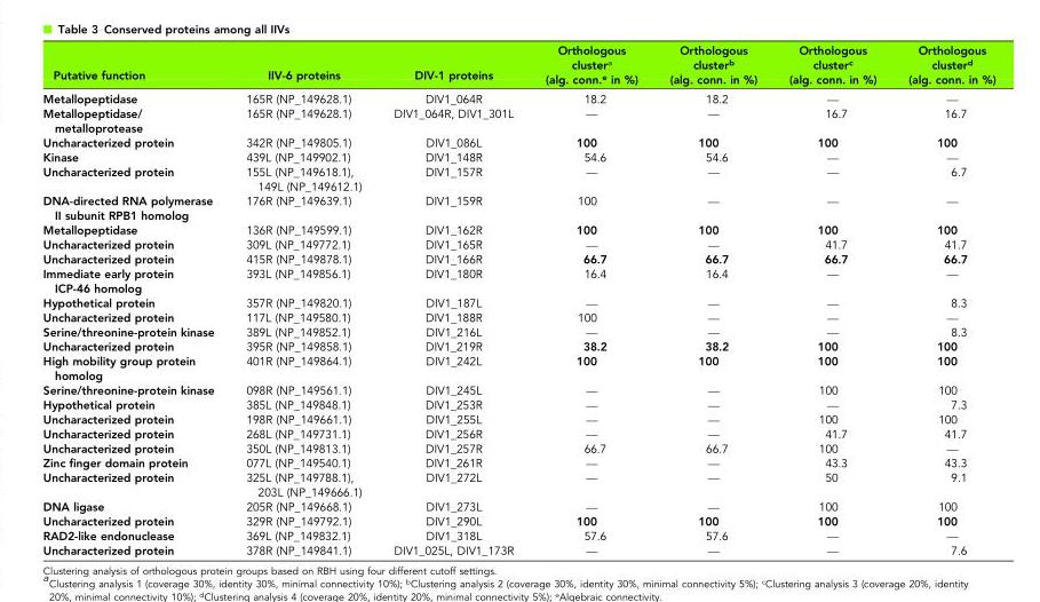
<table><thead><tr><td>Putative function</td><td>IIV-6 proteins</td><td>DIV-1 proteins</td><td>Orthologous cluster<sup>a</sup> (alg. conn.<sup>e</sup> in %)</td><td>Orthologous cluster<sup>b</sup> (alg. conn. in %)</td><td>Orthologous cluster<sup>c</sup> (alg. conn. in %)</td><td>Orthologous cluster<sup>d</sup> (alg. conn. in %)</td></tr></thead><tbody><tr><td>Metallopeptidase</td><td>165R (NP_149628.1)</td><td>DIV1_064R</td><td>18.2</td><td>18.2</td><td>—</td><td>—</td></tr><tr><td>Metallopeptidase/ metalloprotease</td><td>165R (NP_149628.1)</td><td>DIV1_064R, DIV1_301L</td><td>—</td><td>—</td><td>16.7</td><td>16.7</td></tr><tr><td>Uncharacterized protein</td><td>342R (NP_149805.1)</td><td>DIV1_086L</td><td>100</td><td>100</td><td>100</td><td>100</td></tr><tr><td>Kinase</td><td>439L (NP_149902.1)</td><td>DIV1_148R</td><td>54.6</td><td>54.6</td><td>—</td><td>—</td></tr><tr><td>Uncharacterized protein</td><td>155L (NP_149618.1), 149L (NP_149612.1)</td><td>DIV1_157R</td><td>—</td><td>—</td><td>—</td><td>6.7</td></tr><tr><td>DNA-directed RNA polymerase II subunit RPB1 homolog</td><td>176R (NP_149639.1)</td><td>DIV1_159R</td><td>100</td><td>—</td><td>—</td><td>—</td></tr><tr><td>Metallopeptidase</td><td>136R (NP_149599.1)</td><td>DIV1_162R</td><td>100</td><td>100</td><td>100</td><td>100</td></tr><tr><td>Uncharacterized protein</td><td>309L (NP_149772.1)</td><td>DIV1_165R</td><td>—</td><td>—</td><td>41.7</td><td>41.7</td></tr><tr><td>Uncharacterized protein</td><td>415R (NP_149878.1)</td><td>DIV1_166R</td><td>66.7</td><td>66.7</td><td>66.7</td><td>66.7</td></tr><tr><td>Immediate early protein ICP-46 homolog</td><td>393L (NP_149856.1)</td><td>DIV1_180R</td><td>16.4</td><td>16.4</td><td>—</td><td>—</td></tr><tr><td>Hypothetical protein</td><td>357R (NP_149820.1)</td><td>DIV1_187L</td><td>—</td><td>—</td><td>—</td><td>8.3</td></tr><tr><td>Uncharacterized protein</td><td>117L (NP_149580.1)</td><td>DIV1_188R</td><td>100</td><td>—</td><td>—</td><td>—</td></tr><tr><td>Serine/threonine-protein kinase</td><td>389L (NP_149852.1)</td><td>DIV1_216L</td><td>—</td><td>—</td><td>—</td><td>8.3</td></tr><tr><td>Uncharacterized protein</td><td>395R (NP_149858.1)</td><td>DIV1_219R</td><td>38.2</td><td>38.2</td><td>100</td><td>100</td></tr><tr><td>High mobility group protein homolog</td><td>401R (NP_149864.1)</td><td>DIV1_242L</td><td>100</td><td>100</td><td>100</td><td>100</td></tr><tr><td>Serine/threonine-protein kinase</td><td>098R (NP_149561.1)</td><td>DIV1_245L</td><td>—</td><td>—</td><td>100</td><td>100</td></tr><tr><td>Hypothetical protein</td><td>385L (NP_149848.1)</td><td>DIV1_253R</td><td>—</td><td>—</td><td>—</td><td>7.3</td></tr><tr><td>Uncharacterized protein</td><td>198R (NP_149661.1)</td><td>DIV1_255L</td><td>—</td><td>—</td><td>100</td><td>100</td></tr><tr><td>Uncharacterized protein</td><td>268L (NP_149731.1)</td><td>DIV1_256R</td><td>—</td><td>—</td><td>41.7</td><td>41.7</td></tr><tr><td>Uncharacterized protein</td><td>350L (NP_149813.1)</td><td>DIV1_257R</td><td>66.7</td><td>66.7</td><td>100</td><td>—</td></tr><tr><td>Zinc finger domain protein</td><td>077L (NP_149540.1)</td><td>DIV1_261R</td><td>—</td><td>—</td><td>43.3</td><td>43.3</td></tr><tr><td>Uncharacterized protein</td><td>325L (NP_149788.1), 203L (NP_149666.1)</td><td>DIV1_272L</td><td>—</td><td>—</td><td>50</td><td>9.1</td></tr><tr><td>DNA ligase</td><td>205R (NP_149668.1)</td><td>DIV1_273L</td><td>—</td><td>—</td><td>100</td><td>100</td></tr><tr><td>Uncharacterized protein</td><td>329R (NP_149792.1)</td><td>DIV1_290L</td><td>100</td><td>100</td><td>100</td><td>100</td></tr><tr><td>RAD2-like endonuclease</td><td>369L (NP_149832.1)</td><td>DIV1_318L</td><td>57.6</td><td>57.6</td><td>—</td><td>—</td></tr><tr><td>Uncharacterized protein</td><td>378R (NP_149841.1)</td><td>DIV1_025L, DIV1_173R</td><td>—</td><td>—</td><td>—</td><td>7.6</td></tr></tbody></table>